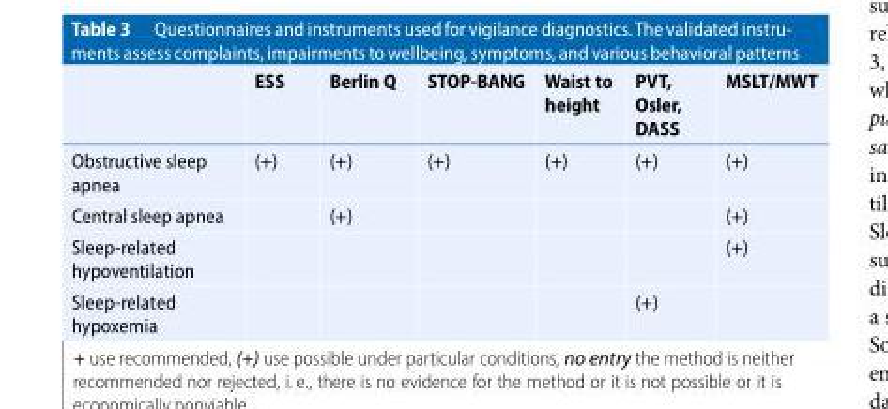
<table><thead><tr><td></td><td>ESS</td><td>Berlin Q</td><td>STOP-BANG</td><td>Waist to height</td><td>PVT, Osler, DASS</td><td>MSLT/MWT</td></tr></thead><tbody><tr><td>Obstructive sleep apnea</td><td>(+)</td><td>(+)</td><td>(+)</td><td>(+)</td><td>(+)</td><td>(+)</td></tr><tr><td>Central sleep apnea</td><td></td><td>(+)</td><td></td><td></td><td></td><td>(+)</td></tr><tr><td>Sleep-related hypoventilation</td><td></td><td></td><td></td><td></td><td></td><td>(+)</td></tr><tr><td>Sleep-related hypoxemia</td><td></td><td></td><td></td><td></td><td>(+)</td><td></td></tr></tbody></table>